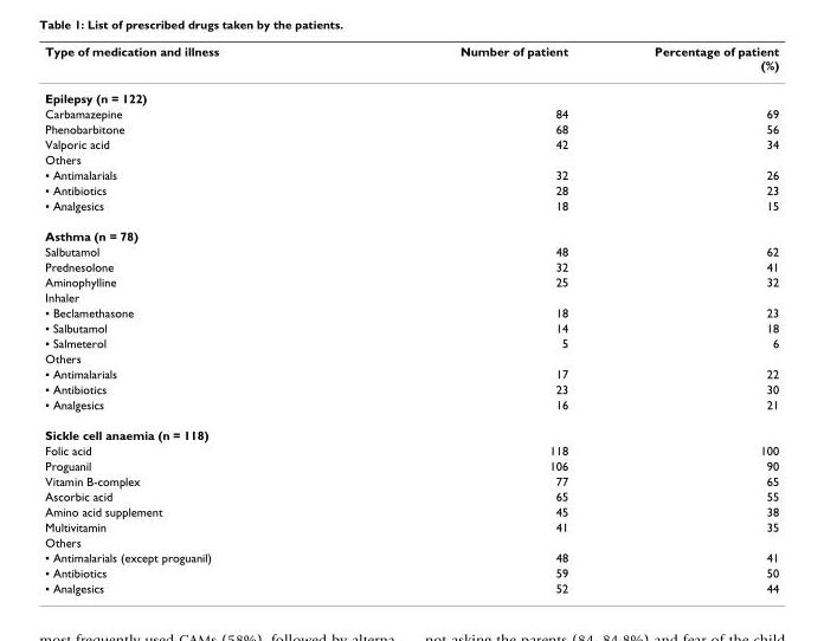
<table><thead><tr><td>Type of medication and illness</td><td>Number of patient</td><td>Percentage of patient (%)</td></tr></thead><tbody><tr><td colspan="3">Epilepsy (n = 122)</td></tr><tr><td>Carbamazepine</td><td>84</td><td>69</td></tr><tr><td>Phenobarbitone</td><td>68</td><td>56</td></tr><tr><td>Valporic acid</td><td>42</td><td>34</td></tr><tr><td colspan="3">Others</td></tr><tr><td>▪ Antimalarials</td><td>32</td><td>26</td></tr><tr><td>▪ Antibiotics</td><td>28</td><td>23</td></tr><tr><td>▪ Analgesics</td><td>18</td><td>15</td></tr><tr><td colspan="3">Asthma (n = 78)</td></tr><tr><td>Salbutamol</td><td>48</td><td>62</td></tr><tr><td>Prednesolone</td><td>32</td><td>41</td></tr><tr><td>Aminophylline</td><td>25</td><td>32</td></tr><tr><td colspan="3">Inhaler</td></tr><tr><td>▪ Beclamethasone</td><td>18</td><td>23</td></tr><tr><td>▪ Salbutamol</td><td>14</td><td>18</td></tr><tr><td>▪ Salmeterol</td><td>5</td><td>6</td></tr><tr><td colspan="3">Others</td></tr><tr><td>▪ Antimalarials</td><td>17</td><td>22</td></tr><tr><td>▪ Antibiotics</td><td>23</td><td>30</td></tr><tr><td>▪ Analgesics</td><td>16</td><td>21</td></tr><tr><td colspan="3">Sickle cell anaemia (n = 118)</td></tr><tr><td>Folic acid</td><td>118</td><td>100</td></tr><tr><td>Proguanil</td><td>106</td><td>90</td></tr><tr><td>Vitamin B-complex</td><td>77</td><td>65</td></tr><tr><td>Ascorbic acid</td><td>65</td><td>55</td></tr><tr><td>Amino acid supplement</td><td>45</td><td>38</td></tr><tr><td>Multivitamin</td><td>41</td><td>35</td></tr><tr><td colspan="3">Others</td></tr><tr><td>▪ Antimalarials (except proguanil)</td><td>48</td><td>41</td></tr><tr><td>▪ Antibiotics</td><td>59</td><td>50</td></tr><tr><td>▪ Analgesics</td><td>52</td><td>44</td></tr></tbody></table>